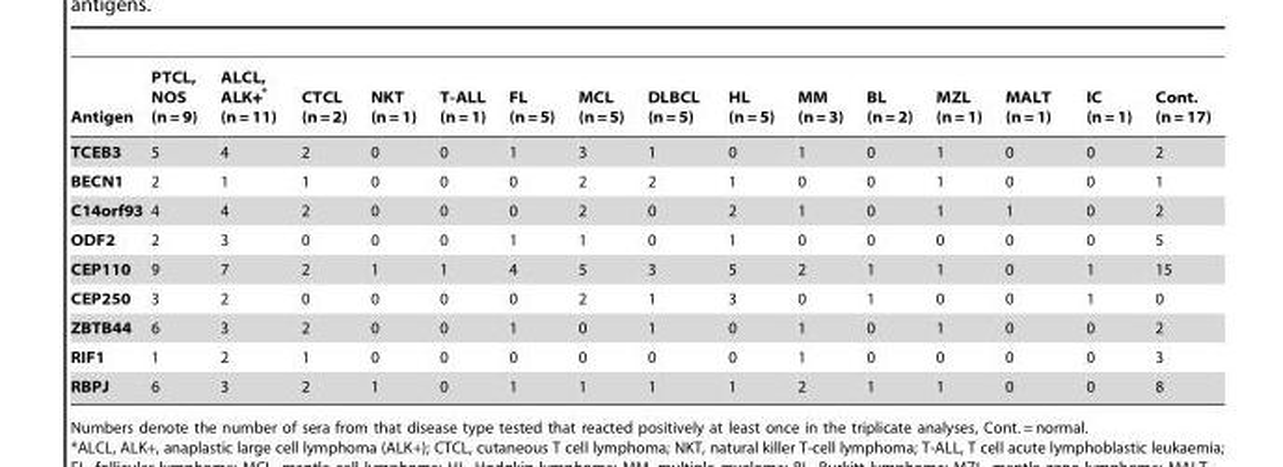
<table><thead><tr><td>Antigen</td><td>PTCL, NOS (n = 9)</td><td>ALCL, ALK+* (n = 11)</td><td>CTCL (n = 2)</td><td>NKT (n = 1)</td><td>T-ALL (n = 1)</td><td>FL (n = 5)</td><td>MCL (n = 5)</td><td>DLBCL (n = 5)</td><td>HL (n = 5)</td><td>MM (n = 3)</td><td>BL (n = 2)</td><td>MZL (n = 1)</td><td>MALT (n = 1)</td><td>IC (n = 1)</td><td>Cont. (n = 17)</td></tr></thead><tbody><tr><td>TCEB3</td><td>5</td><td>4</td><td>2</td><td>0</td><td>0</td><td>1</td><td>3</td><td>1</td><td>0</td><td>1</td><td>0</td><td>1</td><td>0</td><td>0</td><td>2</td></tr><tr><td>BECN1</td><td>2</td><td>1</td><td>1</td><td>0</td><td>0</td><td>0</td><td>2</td><td>2</td><td>1</td><td>0</td><td>0</td><td>1</td><td>0</td><td>0</td><td>1</td></tr><tr><td>C14orf93</td><td>4</td><td>4</td><td>2</td><td>0</td><td>0</td><td>0</td><td>2</td><td>0</td><td>2</td><td>1</td><td>0</td><td>1</td><td>1</td><td>0</td><td>2</td></tr><tr><td>ODF2</td><td>2</td><td>3</td><td>0</td><td>0</td><td>0</td><td>1</td><td>1</td><td>0</td><td>1</td><td>0</td><td>0</td><td>0</td><td>0</td><td>0</td><td>5</td></tr><tr><td>CEP110</td><td>9</td><td>7</td><td>2</td><td>1</td><td>1</td><td>4</td><td>5</td><td>3</td><td>5</td><td>2</td><td>1</td><td>1</td><td>0</td><td>1</td><td>15</td></tr><tr><td>CEP250</td><td>3</td><td>2</td><td>0</td><td>0</td><td>0</td><td>0</td><td>2</td><td>1</td><td>3</td><td>0</td><td>1</td><td>0</td><td>0</td><td>1</td><td>0</td></tr><tr><td>ZBTB44</td><td>6</td><td>3</td><td>2</td><td>0</td><td>0</td><td>1</td><td>0</td><td>1</td><td>0</td><td>1</td><td>0</td><td>1</td><td>0</td><td>0</td><td>2</td></tr><tr><td>RIF1</td><td>1</td><td>2</td><td>1</td><td>0</td><td>0</td><td>0</td><td>0</td><td>0</td><td>0</td><td>1</td><td>0</td><td>0</td><td>0</td><td>0</td><td>3</td></tr><tr><td>RBPJ</td><td>6</td><td>3</td><td>2</td><td>1</td><td>0</td><td>1</td><td>1</td><td>1</td><td>1</td><td>2</td><td>1</td><td>1</td><td>0</td><td>0</td><td>8</td></tr></tbody></table>